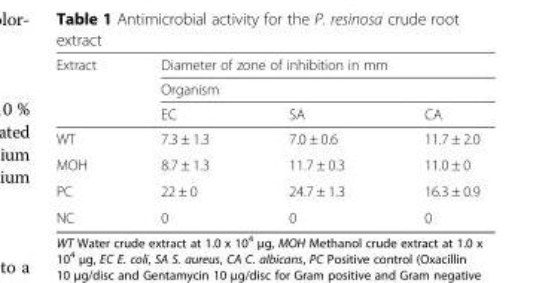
<table><thead><tr><td rowspan="3">Extract</td><td rowspan="2" colspan="3">Diameter of zone of inhibition in mm Organism</td></tr><tr></tr><tr><td>EC</td><td>SA</td><td>CA</td></tr></thead><tbody><tr><td>WT</td><td>7.3 ± 1.3</td><td>7.0 ± 0.6</td><td>11.7 ± 2.0</td></tr><tr><td>MOH</td><td>8.7 ± 1.3</td><td>11.7 ± 0.3</td><td>11.0 ± 0</td></tr><tr><td>PC</td><td>22 ± 0</td><td>24.7 ± 1.3</td><td>16.3 ± 0.9</td></tr><tr><td>NC</td><td>0</td><td>0</td><td>0</td></tr></tbody></table>